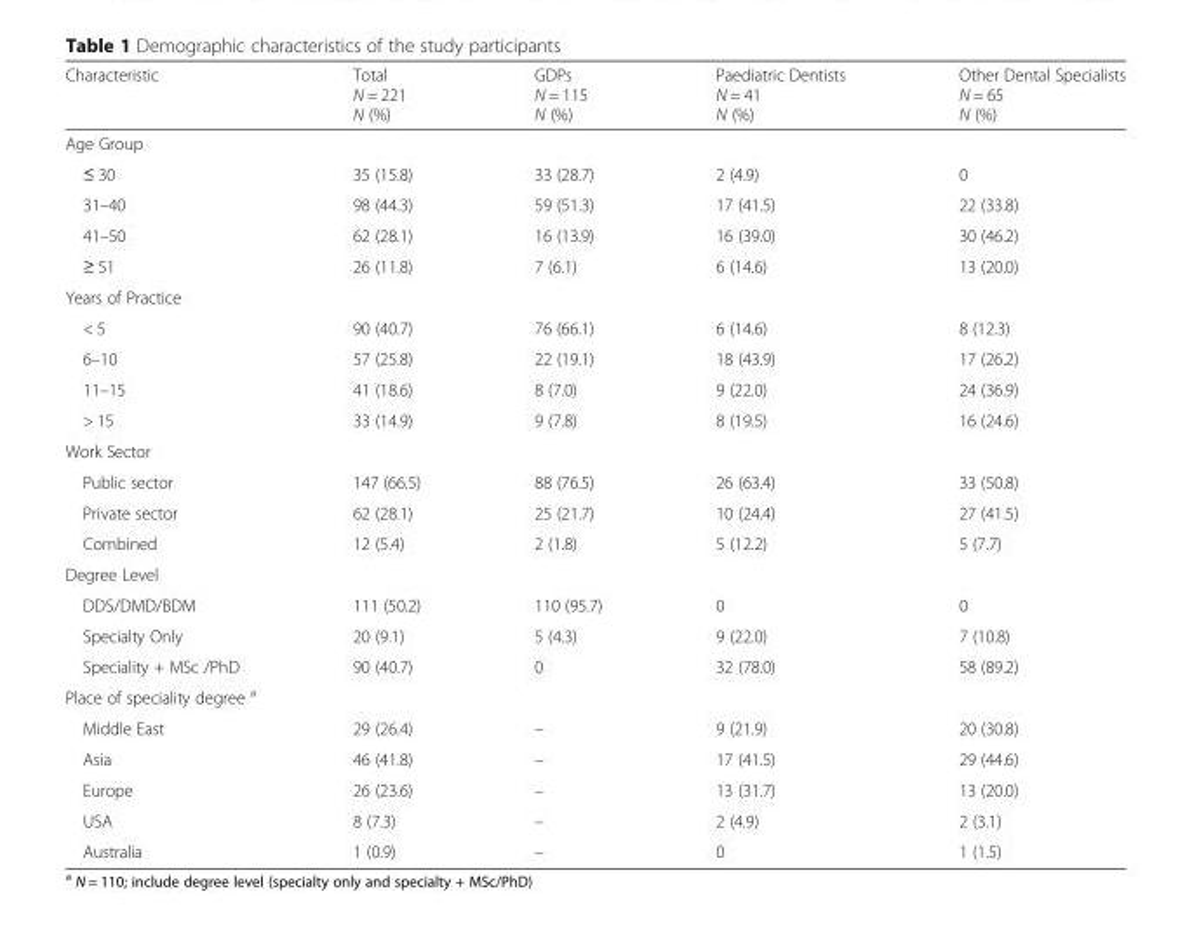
<table><thead><tr><td>Characteristic</td><td>Total N = 221 N (%)</td><td>GDPs N = 115 N (%)</td><td>Paediatric Dentists N = 41 N (%)</td><td>Other Dental Specialists N = 65 N (%)</td></tr></thead><tbody><tr><td colspan="5">Age Group</td></tr><tr><td>≤ 30</td><td>35 (15.8)</td><td>33 (28.7)</td><td>2 (4.9)</td><td>0</td></tr><tr><td>31–40</td><td>98 (44.3)</td><td>59 (51.3)</td><td>17 (41.5)</td><td>22 (33.8)</td></tr><tr><td>41–50</td><td>62 (28.1)</td><td>16 (13.9)</td><td>16 (39.0)</td><td>30 (46.2)</td></tr><tr><td>≥ 51</td><td>26 (11.8)</td><td>7 (6.1)</td><td>6 (14.6)</td><td>13 (20.0)</td></tr><tr><td colspan="5">Years of Practice</td></tr><tr><td>&lt; 5</td><td>90 (40.7)</td><td>76 (66.1)</td><td>6 (14.6)</td><td>8 (12.3)</td></tr><tr><td>6–10</td><td>57 (25.8)</td><td>22 (19.1)</td><td>18 (43.9)</td><td>17 (26.2)</td></tr><tr><td>11–15</td><td>41 (18.6)</td><td>8 (7.0)</td><td>9 (22.0)</td><td>24 (36.9)</td></tr><tr><td>&gt; 15</td><td>33 (14.9)</td><td>9 (7.8)</td><td>8 (19.5)</td><td>16 (24.6)</td></tr><tr><td colspan="5">Work Sector</td></tr><tr><td>Public sector</td><td>147 (66.5)</td><td>88 (76.5)</td><td>26 (63.4)</td><td>33 (50.8)</td></tr><tr><td>Private sector</td><td>62 (28.1)</td><td>25 (21.7)</td><td>10 (24.4)</td><td>27 (41.5)</td></tr><tr><td>Combined</td><td>12 (5.4)</td><td>2 (1.8)</td><td>5 (12.2)</td><td>5 (7.7)</td></tr><tr><td colspan="5">Degree Level</td></tr><tr><td>DDS/DMD/BDM</td><td>111 (50.2)</td><td>110 (95.7)</td><td>0</td><td>0</td></tr><tr><td>Specialty Only</td><td>20 (9.1)</td><td>5 (4.3)</td><td>9 (22.0)</td><td>7 (10.8)</td></tr><tr><td>Speciality + MSc /PhD</td><td>90 (40.7)</td><td>0</td><td>32 (78.0)</td><td>58 (89.2)</td></tr><tr><td colspan="5">Place of speciality degree <sup>a</sup></td></tr><tr><td>Middle East</td><td>29 (26.4)</td><td>–</td><td>9 (21.9)</td><td>20 (30.8)</td></tr><tr><td>Asia</td><td>46 (41.8)</td><td>–</td><td>17 (41.5)</td><td>29 (44.6)</td></tr><tr><td>Europe</td><td>26 (23.6)</td><td>–</td><td>13 (31.7)</td><td>13 (20.0)</td></tr><tr><td>USA</td><td>8 (7.3)</td><td>–</td><td>2 (4.9)</td><td>2 (3.1)</td></tr><tr><td>Australia</td><td>1 (0.9)</td><td>–</td><td>0</td><td>1 (1.5)</td></tr></tbody></table>